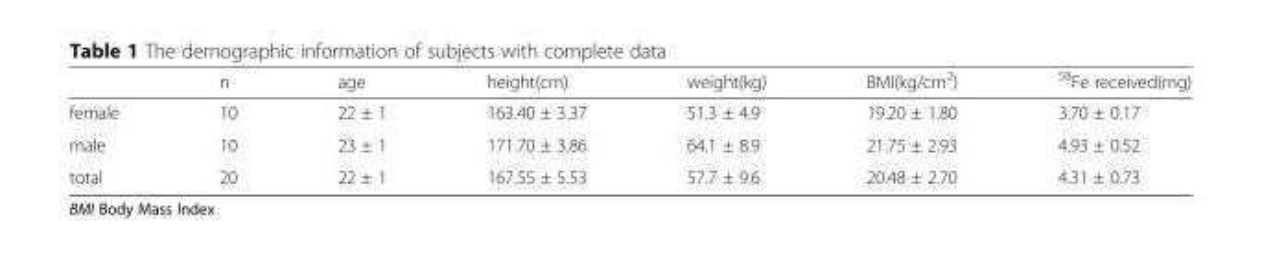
<table><thead><tr><td></td><td>n</td><td>age</td><td>height(cm)</td><td>weight(kg)</td><td>BMI(kg/cm<sup>2</sup>)</td><td><sup>58</sup>Fe received(mg)</td></tr></thead><tbody><tr><td>female</td><td>10</td><td>22 ± 1</td><td>163.40 ± 3.37</td><td>51.3 ± 4.9</td><td>19.20 ± 1.80</td><td>3.70 ± 0.17</td></tr><tr><td>male</td><td>10</td><td>23 ± 1</td><td>171.70 ± 3.86</td><td>64.1 ± 8.9</td><td>21.75 ± 2.93</td><td>4.93 ± 0.52</td></tr><tr><td>total</td><td>20</td><td>22 ± 1</td><td>167.55 ± 5.53</td><td>57.7 ± 9.6</td><td>20.48 ± 2.70</td><td>4.31 ± 0.73</td></tr></tbody></table>